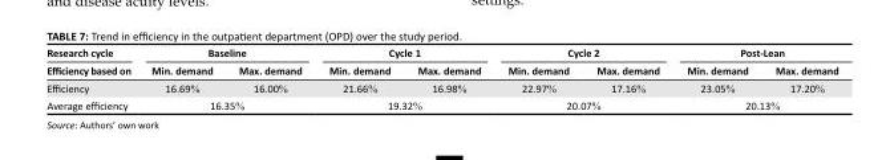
<table><thead><tr><td rowspan="2">Research cycle Efficiency based on</td><td colspan="2">Baseline</td><td colspan="2">Cycle 1</td><td colspan="2">Cycle 2</td><td colspan="2">Post-Lean</td></tr><tr><td>Min. demand</td><td>Max. demand</td><td>Min. demand</td><td>Max. demand</td><td>Min. demand</td><td>Max. demand</td><td>Min. demand</td><td>Max. demand</td></tr></thead><tbody><tr><td>Efficiency</td><td>16.69%</td><td>16.00%</td><td>21.66%</td><td>16.98%</td><td>22.97%</td><td>17.16%</td><td>23.05%</td><td>17.20%</td></tr><tr><td>Average efficiency</td><td colspan="2">16.35%</td><td colspan="2">19.32%</td><td colspan="2">20.07%</td><td colspan="2">20.13%</td></tr></tbody></table>